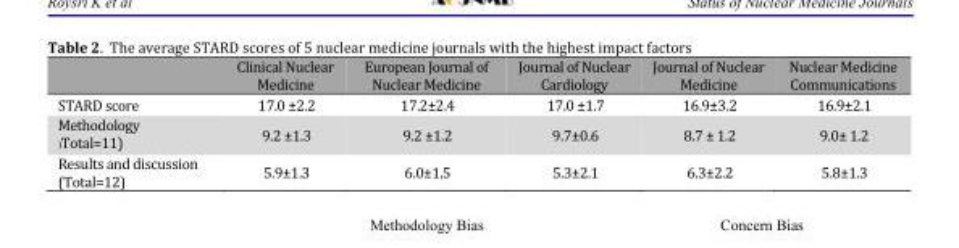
<table><thead><tr><td></td><td>Clinical Nuclear Medicine</td><td>European Journal of Nuclear Medicine</td><td>Journal of Nuclear Cardiology</td><td>Journal of Nuclear Medicine</td><td>Nuclear Medicine Communications</td></tr></thead><tbody><tr><td>STARD score</td><td>17.0 ±2.2</td><td>17.2±2.4</td><td>17.0 ±1.7</td><td>16.9±3.2</td><td>16.9±2.1</td></tr><tr><td>Methodology )Total=11)</td><td>9.2 ±1.3</td><td>9.2 ±1.2</td><td>9.7±0.6</td><td>8.7 ± 1.2</td><td>9.0± 1.2</td></tr><tr><td>Results and discussion (Total=12)</td><td>5.9±1.3</td><td>6.0±1.5</td><td>5.3±2.1</td><td>6.3±2.2</td><td>5.8±1.3</td></tr></tbody></table>